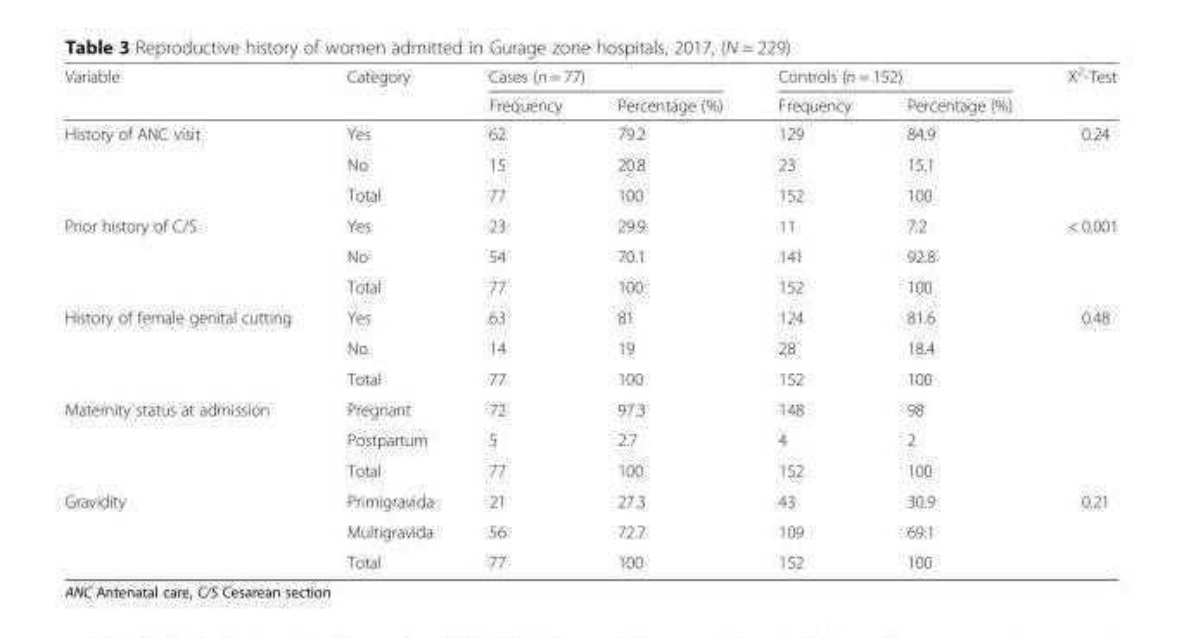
<table><thead><tr><td rowspan="2">Variable</td><td rowspan="2">Category</td><td colspan="2">Cases (n = 77)</td><td colspan="2">Controls (n = 152)</td><td rowspan="2">X<sup>2</sup>-Test</td></tr><tr><td>Frequency</td><td>Percentage (%)</td><td>Frequency</td><td>Percentage (%)</td></tr></thead><tbody><tr><td rowspan="3">History of ANC visit</td><td>Yes</td><td>62</td><td>79.2</td><td>129</td><td>84.9</td><td rowspan="3">0.24</td></tr><tr><td>No</td><td>15</td><td>20.8</td><td>23</td><td>15.1</td></tr><tr><td>Total</td><td>77</td><td>100</td><td>152</td><td>100</td></tr><tr><td rowspan="3">Prior history of C/S</td><td>Yes</td><td>23</td><td>29.9</td><td>11</td><td>7.2</td><td rowspan="3">&lt; 0.001</td></tr><tr><td>No</td><td>54</td><td>70.1</td><td>141</td><td>92.8</td></tr><tr><td>Total</td><td>77</td><td>100</td><td>152</td><td>100</td></tr><tr><td rowspan="3">History of female genital cutting</td><td>Yes</td><td>63</td><td>81</td><td>124</td><td>81.6</td><td rowspan="3">0.48</td></tr><tr><td>No</td><td>14</td><td>19</td><td>28</td><td>18.4</td></tr><tr><td>Total</td><td>77</td><td>100</td><td>152</td><td>100</td></tr><tr><td rowspan="3">Maternity status at admission</td><td>Pregnant</td><td>72</td><td>97.3</td><td>148</td><td>98</td><td rowspan="3"></td></tr><tr><td>Postpartum</td><td>5</td><td>2.7</td><td>4</td><td>2</td></tr><tr><td>Total</td><td>77</td><td>100</td><td>152</td><td>100</td></tr><tr><td rowspan="3">Gravidity</td><td>Primigravida</td><td>21</td><td>27.3</td><td>43</td><td>30.9</td><td rowspan="3">0.21</td></tr><tr><td>Multigravida</td><td>56</td><td>72.7</td><td>109</td><td>69.1</td></tr><tr><td>Total</td><td>77</td><td>100</td><td>152</td><td>100</td></tr></tbody></table>